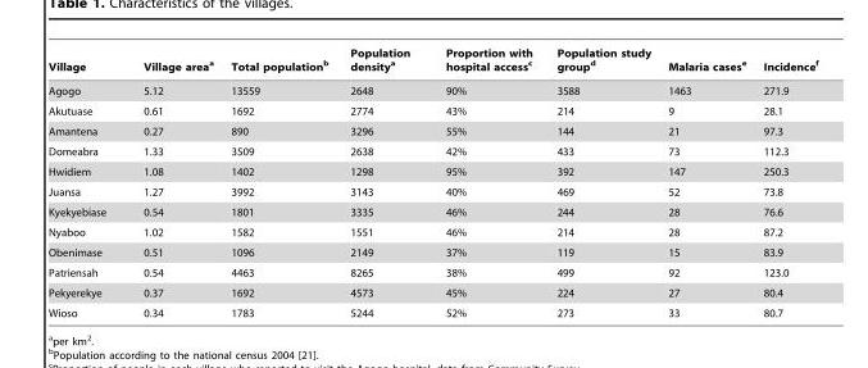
<table><thead><tr><td>Village</td><td>Village area<sup>a</sup></td><td>Total population<sup>b</sup></td><td>Population density<sup>a</sup></td><td>Proportion with hospital access<sup>c</sup></td><td>Population study group<sup>d</sup></td><td>Malaria cases<sup>e</sup></td><td>Incidence<sup>f</sup></td></tr></thead><tbody><tr><td>Agogo</td><td>5.12</td><td>13559</td><td>2648</td><td>90%</td><td>3588</td><td>1463</td><td>271.9</td></tr><tr><td>Akutuase</td><td>0.61</td><td>1692</td><td>2774</td><td>43%</td><td>214</td><td>9</td><td>28.1</td></tr><tr><td>Amantena</td><td>0.27</td><td>890</td><td>3296</td><td>55%</td><td>144</td><td>21</td><td>97.3</td></tr><tr><td>Domeabra</td><td>1.33</td><td>3509</td><td>2638</td><td>42%</td><td>433</td><td>73</td><td>112.3</td></tr><tr><td>Hwidiem</td><td>1.08</td><td>1402</td><td>1298</td><td>95%</td><td>392</td><td>147</td><td>250.3</td></tr><tr><td>Juansa</td><td>1.27</td><td>3992</td><td>3143</td><td>40%</td><td>469</td><td>52</td><td>73.8</td></tr><tr><td>Kyekyebiase</td><td>0.54</td><td>1801</td><td>3335</td><td>46%</td><td>244</td><td>28</td><td>76.6</td></tr><tr><td>Nyaboo</td><td>1.02</td><td>1582</td><td>1551</td><td>46%</td><td>214</td><td>28</td><td>87.2</td></tr><tr><td>Obenimase</td><td>0.51</td><td>1096</td><td>2149</td><td>37%</td><td>119</td><td>15</td><td>83.9</td></tr><tr><td>Patriensah</td><td>0.54</td><td>4463</td><td>8265</td><td>38%</td><td>499</td><td>92</td><td>123.0</td></tr><tr><td>Pekyerekye</td><td>0.37</td><td>1692</td><td>4573</td><td>45%</td><td>224</td><td>27</td><td>80.4</td></tr><tr><td>Wioso</td><td>0.34</td><td>1783</td><td>5244</td><td>52%</td><td>273</td><td>33</td><td>80.7</td></tr></tbody></table>